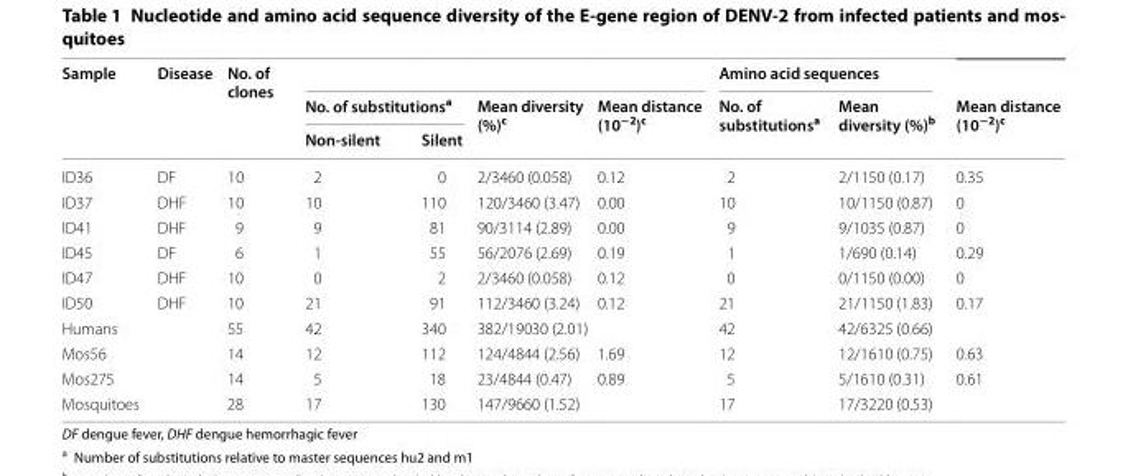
<table><thead><tr><td rowspan="3">Sample</td><td rowspan="3">Disease</td><td rowspan="3">No. of clones</td><td></td><td></td><td rowspan="3">Mean diversity (%)<sup>c</sup></td><td rowspan="3">Mean distance (10<sup>−2</sup>)<sup>c</sup></td><td colspan="2">Amino acid sequences</td><td rowspan="3">Mean distance (10<sup>−2</sup>)<sup>c</sup></td></tr><tr><td colspan="2">No. of substitutions<sup>a</sup></td><td rowspan="2">No. of substitutions<sup>a</sup></td><td rowspan="2">Mean diversity (%)<sup>b</sup></td></tr><tr><td>Non-silent</td><td>Silent</td></tr></thead><tbody><tr><td>ID36</td><td>DF</td><td>10</td><td>2</td><td>0</td><td>2/3460 (0.058)</td><td>0.12</td><td>2</td><td>2/1150 (0.17)</td><td>0.35</td></tr><tr><td>ID37</td><td>DHF</td><td>10</td><td>10</td><td>110</td><td>120/3460 (3.47)</td><td>0.00</td><td>10</td><td>10/1150 (0.87)</td><td>0</td></tr><tr><td>ID41</td><td>DHF</td><td>9</td><td>9</td><td>81</td><td>90/3114 (2.89)</td><td>0.00</td><td>9</td><td>9/1035 (0.87)</td><td>0</td></tr><tr><td>ID45</td><td>DF</td><td>6</td><td>1</td><td>55</td><td>56/2076 (2.69)</td><td>0.19</td><td>1</td><td>1/690 (0.14)</td><td>0.29</td></tr><tr><td>ID47</td><td>DHF</td><td>10</td><td>0</td><td>2</td><td>2/3460 (0.058)</td><td>0.12</td><td>0</td><td>0/1150 (0.00)</td><td>0</td></tr><tr><td>ID50</td><td>DHF</td><td>10</td><td>21</td><td>91</td><td>112/3460 (3.24)</td><td>0.12</td><td>21</td><td>21/1150 (1.83)</td><td>0.17</td></tr><tr><td>Humans</td><td></td><td>55</td><td>42</td><td>340</td><td>382/19030 (2.01)</td><td></td><td>42</td><td>42/6325 (0.66)</td><td></td></tr><tr><td>Mos56</td><td></td><td>14</td><td>12</td><td>112</td><td>124/4844 (2.56)</td><td>1.69</td><td>12</td><td>12/1610 (0.75)</td><td>0.63</td></tr><tr><td>Mos275</td><td></td><td>14</td><td>5</td><td>18</td><td>23/4844 (0.47)</td><td>0.89</td><td>5</td><td>5/1610 (0.31)</td><td>0.61</td></tr><tr><td>Mosquitoes</td><td></td><td>28</td><td>17</td><td>130</td><td>147/9660 (1.52)</td><td></td><td>17</td><td>17/3220 (0.53)</td><td></td></tr></tbody></table>